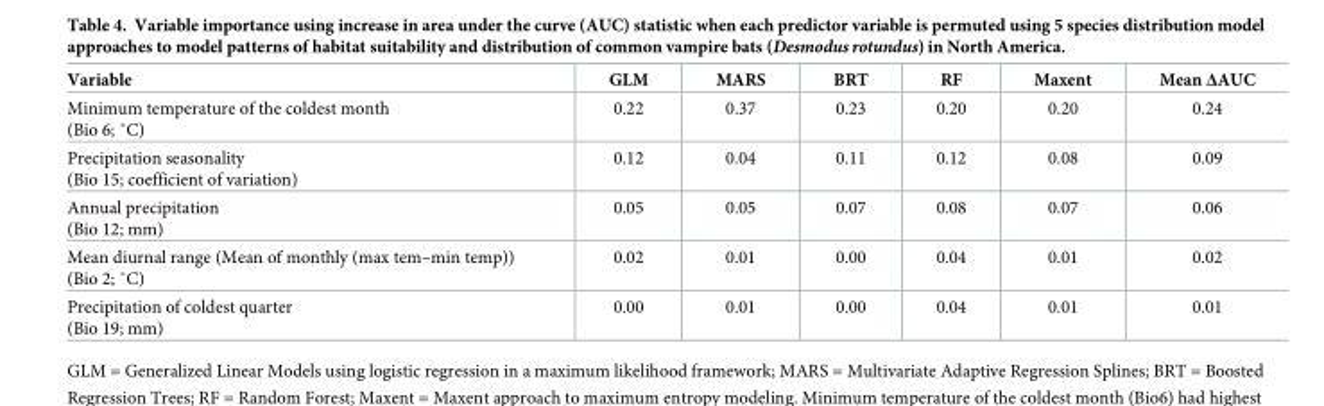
<table><thead><tr><td>Variable</td><td>GLM</td><td>MARS</td><td>BRT</td><td>RF</td><td>Maxent</td><td>Mean ΔAUC</td></tr></thead><tbody><tr><td>Minimum temperature of the coldest month (Bio 6; ˚C)</td><td>0.22</td><td>0.37</td><td>0.23</td><td>0.20</td><td>0.20</td><td>0.24</td></tr><tr><td>Precipitation seasonality (Bio 15; coefficient of variation)</td><td>0.12</td><td>0.04</td><td>0.11</td><td>0.12</td><td>0.08</td><td>0.09</td></tr><tr><td>Annual precipitation (Bio 12; mm)</td><td>0.05</td><td>0.05</td><td>0.07</td><td>0.08</td><td>0.07</td><td>0.06</td></tr><tr><td>Mean diurnal range (Mean of monthly (max tem–min temp)) (Bio 2; ˚C)</td><td>0.02</td><td>0.01</td><td>0.00</td><td>0.04</td><td>0.01</td><td>0.02</td></tr><tr><td>Precipitation of coldest quarter (Bio 19; mm)</td><td>0.00</td><td>0.01</td><td>0.00</td><td>0.04</td><td>0.01</td><td>0.01</td></tr></tbody></table>